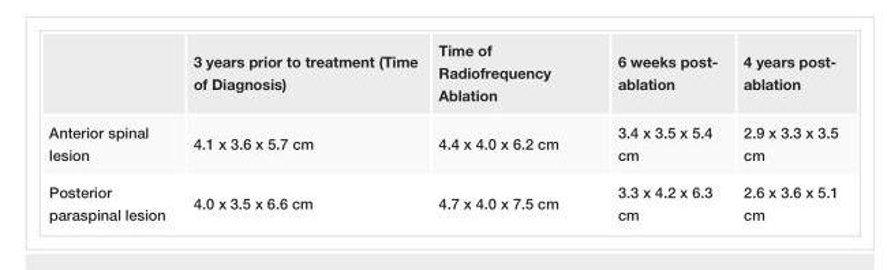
<table><thead><tr><td></td><td>3 years prior to treatment (Time of Diagnosis)</td><td>Time of Radiofrequency Ablation</td><td>6 weeks post- ablation</td><td>4 years post- ablation</td></tr></thead><tbody><tr><td>Anterior spinal lesion</td><td>4.1 x 3.6 x 5.7 cm</td><td>4.4 x 4.0 x 6.2 cm</td><td>3.4 x 3.5 x 5.4 cm</td><td>2.9 x 3.3 x 3.5 cm</td></tr><tr><td>Posterior paraspinal lesion</td><td>4.0 x 3.5 x 6.6 cm</td><td>4.7 x 4.0 x 7.5 cm</td><td>3.3 x 4.2 x 6.3 cm</td><td>2.6 x 3.6 x 5.1 cm</td></tr></tbody></table>